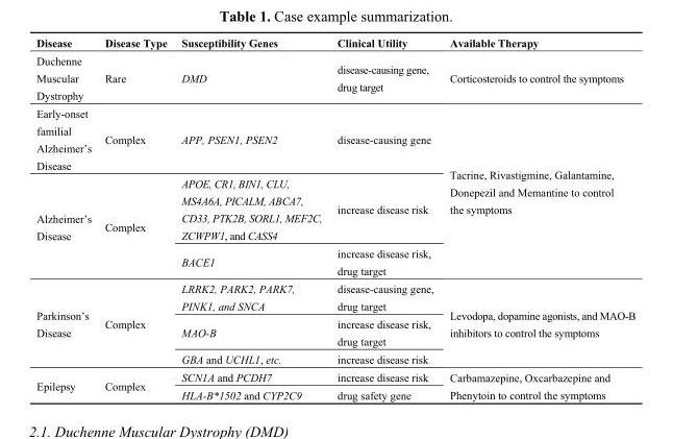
<table><thead><tr><td>Disease</td><td>Disease Type</td><td>Susceptibility Genes</td><td>Clinical Utility</td><td>Available Therapy</td></tr></thead><tbody><tr><td>Duchenne Muscular Dystrophy</td><td>Rare</td><td>DMD</td><td>disease-causing gene, drug target</td><td>Corticosteroids to control the symptoms</td></tr><tr><td>Early-onset familial Alzheimer’s Disease</td><td>Complex</td><td>APP, PSEN1, PSEN2</td><td>disease-causing gene</td><td rowspan="3">Tacrine, Rivastigmine, Galantamine, Donepezil and Memantine to control the symptoms</td></tr><tr><td rowspan="2">Alzheimer’s Disease</td><td rowspan="2">Complex</td><td>APOE, CR1, BIN1, CLU, MS4A6A, PICALM, ABCA7, CD33, PTK2B, SORL1, MEF2C, ZCWPW1, and CASS4</td><td>increase disease risk</td></tr><tr><td>BACE1</td><td>increase disease risk, drug target</td></tr><tr><td rowspan="3">Parkinson’s Disease</td><td rowspan="3">Complex</td><td>LRRK2, PARK2, PARK7, PINK1, and SNCA</td><td>disease-causing gene, drug target</td><td rowspan="3">Levodopa, dopamine agonists, and MAO-B inhibitors to control the symptoms</td></tr><tr><td>MAO-B</td><td>increase disease risk, drug target</td></tr><tr><td>GBA and UCHL1, etc.</td><td>increase disease risk</td></tr><tr><td rowspan="2">Epilepsy</td><td rowspan="2">Complex</td><td>SCN1A and PCDH7</td><td>increase disease risk</td><td rowspan="2">Carbamazepine, Oxcarbazepine and Phenytoin to control the symptoms</td></tr><tr><td>HLA-B*1502 and CYP2C9</td><td>drug safety gene</td></tr></tbody></table>